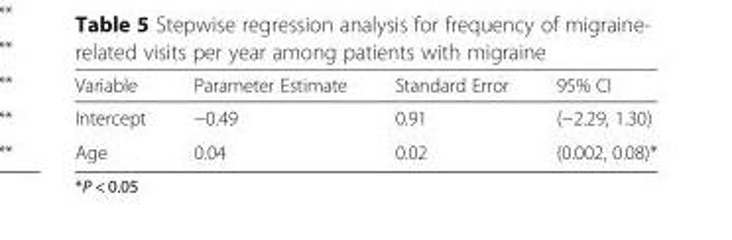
<table><thead><tr><td>Variable</td><td>Parameter Estimate</td><td>Standard Error</td><td>95% CI</td></tr></thead><tbody><tr><td>Intercept</td><td>−0.49</td><td>0.91</td><td>(−2.29, 1.30)</td></tr><tr><td>Age</td><td>0.04</td><td>0.02</td><td>(0.002, 0.08)*</td></tr></tbody></table>